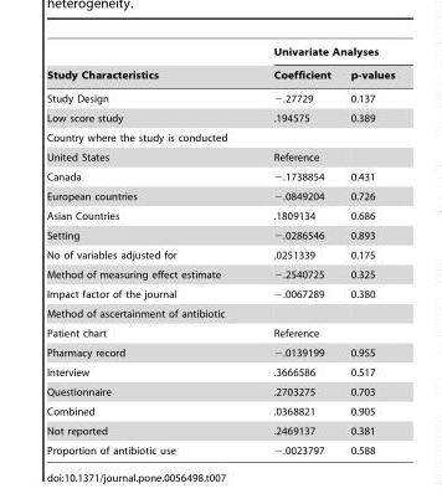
<table><thead><tr><td rowspan="2">Study Characteristics</td><td colspan="2">Univariate Analyses</td></tr><tr><td>Coefficient</td><td>p-values</td></tr></thead><tbody><tr><td>Study Design</td><td>−.27729</td><td>0.137</td></tr><tr><td>Low score study</td><td>.194575</td><td>0.389</td></tr><tr><td colspan="3">Country where the study is conducted</td></tr><tr><td>United States</td><td>Reference</td><td></td></tr><tr><td>Canada</td><td>−.1738854</td><td>0.431</td></tr><tr><td>European countries</td><td>−.0849204</td><td>0.726</td></tr><tr><td>Asian Countries</td><td>.1809134</td><td>0.686</td></tr><tr><td>Setting</td><td>−.0286546</td><td>0.893</td></tr><tr><td>No of variables adjusted for</td><td>.0251339</td><td>0.175</td></tr><tr><td>Method of measuring effect estimate</td><td>−.2540725</td><td>0.325</td></tr><tr><td>Impact factor of the journal</td><td>−.0067289</td><td>0.380</td></tr><tr><td colspan="3">Method of ascertainment of antibiotic</td></tr><tr><td>Patient chart</td><td>Reference</td><td></td></tr><tr><td>Pharmacy record</td><td>−.0139199</td><td>0.955</td></tr><tr><td>Interview</td><td>.3666586</td><td>0.517</td></tr><tr><td>Questionnaire</td><td>.2703275</td><td>0.703</td></tr><tr><td>Combined</td><td>.0368821</td><td>0.905</td></tr><tr><td>Not reported</td><td>.2469137</td><td>0.381</td></tr><tr><td>Proportion of antibiotic use</td><td>−.0023797</td><td>0.588</td></tr></tbody></table>